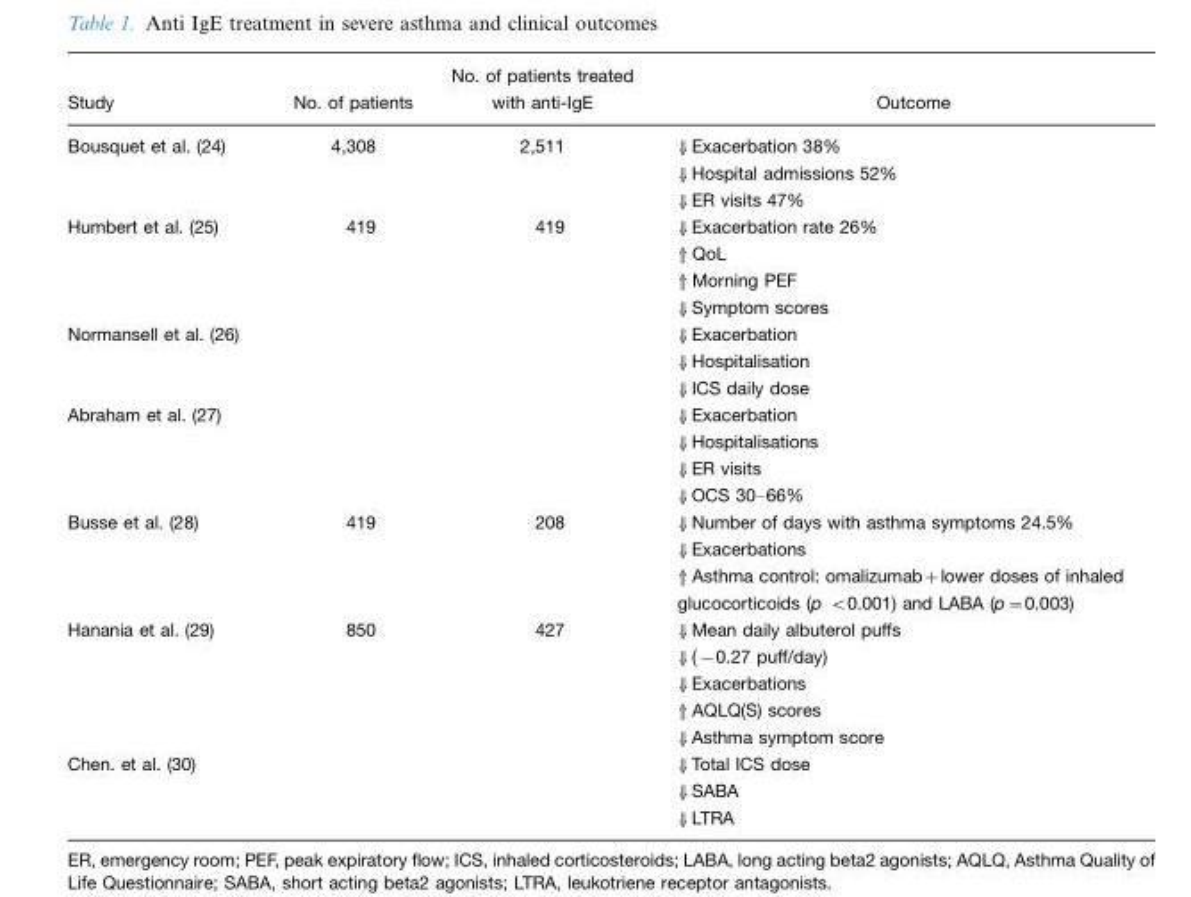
<table><thead><tr><td>Study</td><td>No. of patients</td><td>No. of patients treated with anti-IgE</td><td>Outcome</td></tr></thead><tbody><tr><td>Bousquet et al. (24)</td><td>4,308</td><td>2,511</td><td>⇓Exacerbation 38% ⇓Hospital admissions 52% ⇓ER visits 47%</td></tr><tr><td>Humbert et al. (25)</td><td>419</td><td>419</td><td>⇓Exacerbation rate 26% ⇑ QoL ⇑ Morning PEF ⇓Symptom scores</td></tr><tr><td>Normansell et al. (26)</td><td></td><td></td><td>⇓Exacerbation ⇓Hospitalisation ⇓ICS daily dose</td></tr><tr><td>Abraham et al. (27)</td><td></td><td></td><td>⇓Exacerbation ⇓Hospitalisations ⇓ER visits ⇓OCS 30–66%</td></tr><tr><td>Busse et al. (28)</td><td>419</td><td>208</td><td>⇓Number of days with asthma symptoms 24.5% ⇓Exacerbations ⇑ Asthma control: omalizumab+lower doses of inhaled glucocorticoids (p &lt;0.001) and LABA (p=0.003)</td></tr><tr><td>Hanania et al. (29)</td><td>850</td><td>427</td><td>⇓Mean daily albuterol puffs ⇓(−0.27 puff/day) ⇓Exacerbations ⇑ AQLQ(S) scores ⇓Asthma symptom score</td></tr><tr><td>Chen. et al. (30)</td><td></td><td></td><td>⇓Total ICS dose ⇓SABA ⇓LTRA</td></tr></tbody></table>